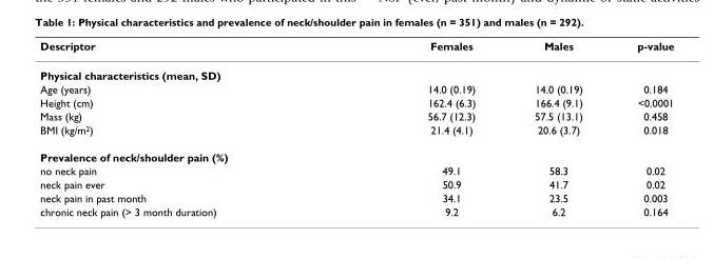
<table><thead><tr><td>Descriptor</td><td>Females</td><td>Males</td><td>p-value</td></tr></thead><tbody><tr><td colspan="4">Physical characteristics (mean, SD)</td></tr><tr><td>Age (years)</td><td>14.0 (0.19)</td><td>14.0 (0.19)</td><td>0.184</td></tr><tr><td>Height (cm)</td><td>162.4 (6.3)</td><td>166.4 (9.1)</td><td>&lt;0.0001</td></tr><tr><td>Mass (kg)</td><td>56.7 (12.3)</td><td>57.5 (13.1)</td><td>0.458</td></tr><tr><td>BMI (kg/m<sup>2</sup>)</td><td>21.4 (4.1)</td><td>20.6 (3.7)</td><td>0.018</td></tr><tr><td colspan="4">Prevalence of neck/shoulder pain (%)</td></tr><tr><td>no neck pain</td><td>49.1</td><td>58.3</td><td>0.02</td></tr><tr><td>neck pain ever</td><td>50.9</td><td>41.7</td><td>0.02</td></tr><tr><td>neck pain in past month</td><td>34.1</td><td>23.5</td><td>0.003</td></tr><tr><td>chronic neck pain (&gt; 3 month duration)</td><td>9.2</td><td>6.2</td><td>0.164</td></tr></tbody></table>